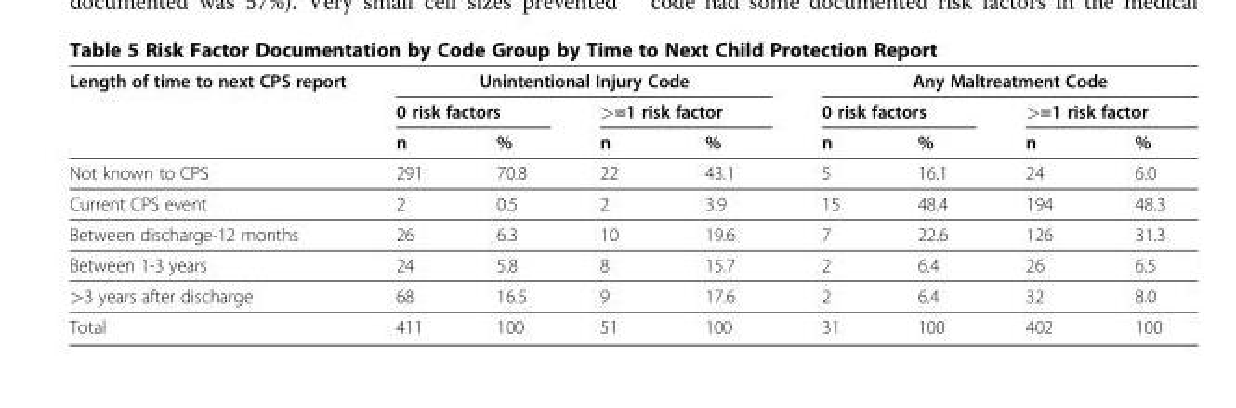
<table><thead><tr><td rowspan="3">Length of time to next CPS report</td><td colspan="4">Unintentional Injury Code</td><td colspan="4">Any Maltreatment Code</td></tr><tr><td colspan="2">0 risk factors</td><td colspan="2">&gt;=1 risk factor</td><td colspan="2">0 risk factors</td><td colspan="2">&gt;=1 risk factor</td></tr><tr><td>n</td><td>%</td><td>n</td><td>%</td><td>n</td><td>%</td><td>n</td><td>%</td></tr></thead><tbody><tr><td>Not known to CPS</td><td>291</td><td>70.8</td><td>22</td><td>43.1</td><td>5</td><td>16.1</td><td>24</td><td>6.0</td></tr><tr><td>Current CPS event</td><td>2</td><td>0.5</td><td>2</td><td>3.9</td><td>15</td><td>48.4</td><td>194</td><td>48.3</td></tr><tr><td>Between discharge-12 months</td><td>26</td><td>6.3</td><td>10</td><td>19.6</td><td>7</td><td>22.6</td><td>126</td><td>31.3</td></tr><tr><td>Between 1-3 years</td><td>24</td><td>5.8</td><td>8</td><td>15.7</td><td>2</td><td>6.4</td><td>26</td><td>6.5</td></tr><tr><td>&gt;3 years after discharge</td><td>68</td><td>16.5</td><td>9</td><td>17.6</td><td>2</td><td>6.4</td><td>32</td><td>8.0</td></tr><tr><td>Total</td><td>411</td><td>100</td><td>51</td><td>100</td><td>31</td><td>100</td><td>402</td><td>100</td></tr></tbody></table>